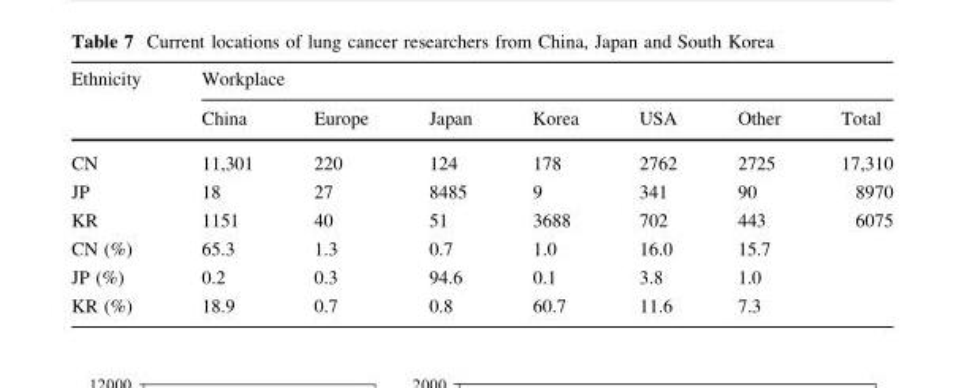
<table><thead><tr><td rowspan="2">Ethnicity</td><td colspan="7">Workplace</td></tr><tr><td>China</td><td>Europe</td><td>Japan</td><td>Korea</td><td>USA</td><td>Other</td><td>Total</td></tr></thead><tbody><tr><td>CN</td><td>11,301</td><td>220</td><td>124</td><td>178</td><td>2762</td><td>2725</td><td>17,310</td></tr><tr><td>JP</td><td>18</td><td>27</td><td>8485</td><td>9</td><td>341</td><td>90</td><td>8970</td></tr><tr><td>KR</td><td>1151</td><td>40</td><td>51</td><td>3688</td><td>702</td><td>443</td><td>6075</td></tr><tr><td>CN (%)</td><td>65.3</td><td>1.3</td><td>0.7</td><td>1.0</td><td>16.0</td><td>15.7</td><td></td></tr><tr><td>JP (%)</td><td>0.2</td><td>0.3</td><td>94.6</td><td>0.1</td><td>3.8</td><td>1.0</td><td></td></tr><tr><td>KR (%)</td><td>18.9</td><td>0.7</td><td>0.8</td><td>60.7</td><td>11.6</td><td>7.3</td><td></td></tr></tbody></table>